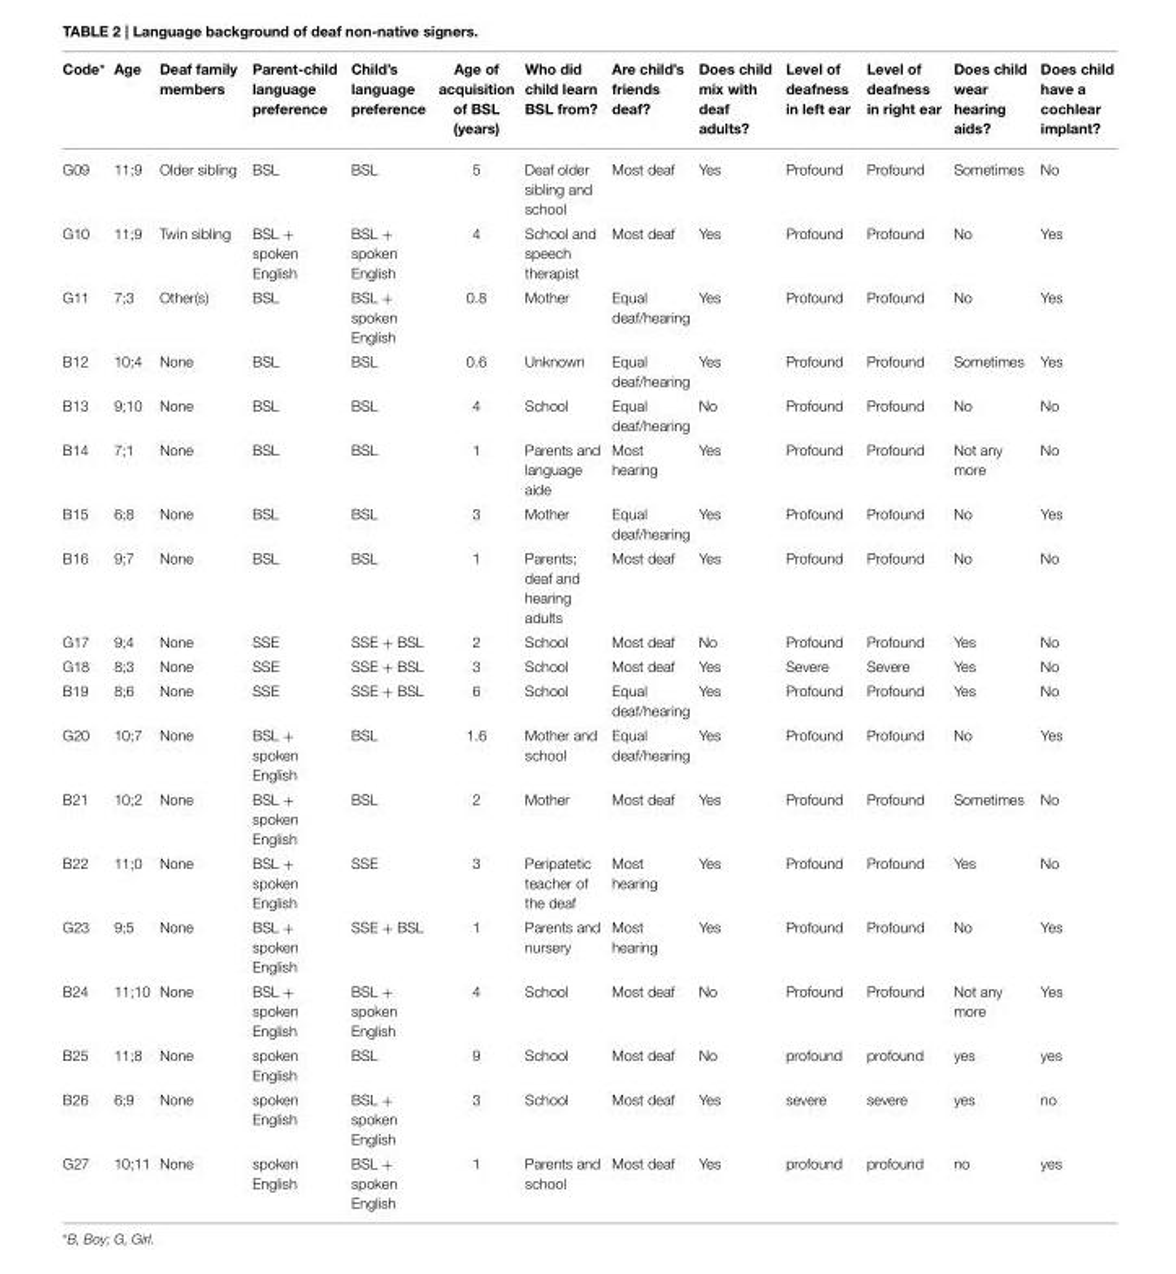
<table><thead><tr><td>Code*</td><td>Age</td><td>Deaf family members</td><td>Parent-child language preference</td><td>Child’s language preference</td><td>Age of acquisition of BSL (years)</td><td>Who did child learn BSL from?</td><td>Are child’s friends deaf?</td><td>Does child mix with deaf adults?</td><td>Level of deafness in left ear</td><td>Level of deafness in right ear</td><td>Does child wear hearing aids?</td><td>Does child have a cochlear implant?</td></tr></thead><tbody><tr><td>G09</td><td>11;9</td><td>Older sibling</td><td>BSL</td><td>BSL</td><td>5</td><td>Deaf older sibling and school</td><td>Most deaf</td><td>Yes</td><td>Profound</td><td>Profound</td><td>Sometimes</td><td>No</td></tr><tr><td>G10</td><td>11;9</td><td>Twin sibling</td><td>BSL + spoken English</td><td>BSL + spoken English</td><td>4</td><td>School and speech therapist</td><td>Most deaf</td><td>Yes</td><td>Profound</td><td>Profound</td><td>No</td><td>Yes</td></tr><tr><td>G11</td><td>7;3</td><td>Other(s)</td><td>BSL</td><td>BSL + spoken English</td><td>0.8</td><td>Mother</td><td>Equal deaf/hearing</td><td>Yes</td><td>Profound</td><td>Profound</td><td>No</td><td>Yes</td></tr><tr><td>B12</td><td>10;4</td><td>None</td><td>BSL</td><td>BSL</td><td>0.6</td><td>Unknown</td><td>Equal deaf/hearing</td><td>Yes</td><td>Profound</td><td>Profound</td><td>Sometimes</td><td>Yes</td></tr><tr><td>B13</td><td>9;10</td><td>None</td><td>BSL</td><td>BSL</td><td>4</td><td>School</td><td>Equal deaf/hearing</td><td>No</td><td>Profound</td><td>Profound</td><td>No</td><td>No</td></tr><tr><td>B14</td><td>7;1</td><td>None</td><td>BSL</td><td>BSL</td><td>1</td><td>Parents and language aide</td><td>Most hearing</td><td>Yes</td><td>Profound</td><td>Profound</td><td>Not any more</td><td>No</td></tr><tr><td>B15</td><td>6;8</td><td>None</td><td>BSL</td><td>BSL</td><td>3</td><td>Mother</td><td>Equal deaf/hearing</td><td>Yes</td><td>Profound</td><td>Profound</td><td>No</td><td>Yes</td></tr><tr><td>B16</td><td>9;7</td><td>None</td><td>BSL</td><td>BSL</td><td>1</td><td>Parents; deaf and hearing adults</td><td>Most deaf</td><td>Yes</td><td>Profound</td><td>Profound</td><td>No</td><td>No</td></tr><tr><td>G17</td><td>9;4</td><td>None</td><td>SSE</td><td>SSE + BSL</td><td>2</td><td>School</td><td>Most deaf</td><td>No</td><td>Profound</td><td>Profound</td><td>Yes</td><td>No</td></tr><tr><td>G18</td><td>8;3</td><td>None</td><td>SSE</td><td>SSE + BSL</td><td>3</td><td>School</td><td>Most deaf</td><td>Yes</td><td>Severe</td><td>Severe</td><td>Yes</td><td>No</td></tr><tr><td>B19</td><td>8;6</td><td>None</td><td>SSE</td><td>SSE + BSL</td><td>6</td><td>School</td><td>Equal deaf/hearing</td><td>Yes</td><td>Profound</td><td>Profound</td><td>Yes</td><td>No</td></tr><tr><td>G20</td><td>10;7</td><td>None</td><td>BSL + spoken English</td><td>BSL</td><td>1.6</td><td>Mother and school</td><td>Equal deaf/hearing</td><td>Yes</td><td>Profound</td><td>Profound</td><td>No</td><td>Yes</td></tr><tr><td>B21</td><td>10;2</td><td>None</td><td>BSL + spoken English</td><td>BSL</td><td>2</td><td>Mother</td><td>Most deaf</td><td>Yes</td><td>Profound</td><td>Profound</td><td>Sometimes</td><td>No</td></tr><tr><td>B22</td><td>11;0</td><td>None</td><td>BSL + spoken English</td><td>SSE</td><td>3</td><td>Peripatetic teacher of the deaf</td><td>Most hearing</td><td>Yes</td><td>Profound</td><td>Profound</td><td>Yes</td><td>No</td></tr><tr><td>G23</td><td>9;5</td><td>None</td><td>BSL + spoken English</td><td>SSE + BSL</td><td>1</td><td>Parents and nursery</td><td>Most hearing</td><td>Yes</td><td>Profound</td><td>Profound</td><td>No</td><td>Yes</td></tr><tr><td>B24</td><td>11;10</td><td>None</td><td>BSL + spoken English</td><td>BSL + spoken English</td><td>4</td><td>School</td><td>Most deaf</td><td>No</td><td>Profound</td><td>Profound</td><td>Not any more</td><td>Yes</td></tr><tr><td>B25</td><td>11;8</td><td>None</td><td>spoken English</td><td>BSL</td><td>9</td><td>School</td><td>Most deaf</td><td>No</td><td>profound</td><td>profound</td><td>yes</td><td>yes</td></tr><tr><td>B26</td><td>6;9</td><td>None</td><td>spoken English</td><td>BSL + spoken English</td><td>3</td><td>School</td><td>Most deaf</td><td>Yes</td><td>severe</td><td>severe</td><td>yes</td><td>no</td></tr><tr><td>G27</td><td>10;11</td><td>None</td><td>spoken English</td><td>BSL + spoken English</td><td>1</td><td>Parents and school</td><td>Most deaf</td><td>Yes</td><td>profound</td><td>profound</td><td>no</td><td>yes</td></tr></tbody></table>